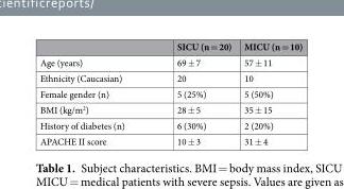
<table><thead><tr><td></td><td>SICU (n = 20)</td><td>MICU (n = 10)</td></tr></thead><tbody><tr><td>Age (years)</td><td>69 ± 7</td><td>57 ± 11</td></tr><tr><td>Ethnicity (Caucasian)</td><td>20</td><td>10</td></tr><tr><td>Female gender (n)</td><td>5 (25%)</td><td>5 (50%)</td></tr><tr><td>BMI (kg/m<sup>2</sup>)</td><td>28 ± 5</td><td>35 ± 15</td></tr><tr><td>History of diabetes (n)</td><td>6 (30%)</td><td>2 (20%)</td></tr><tr><td>APACHE II score</td><td>10 ± 3</td><td>31 ± 4</td></tr></tbody></table>